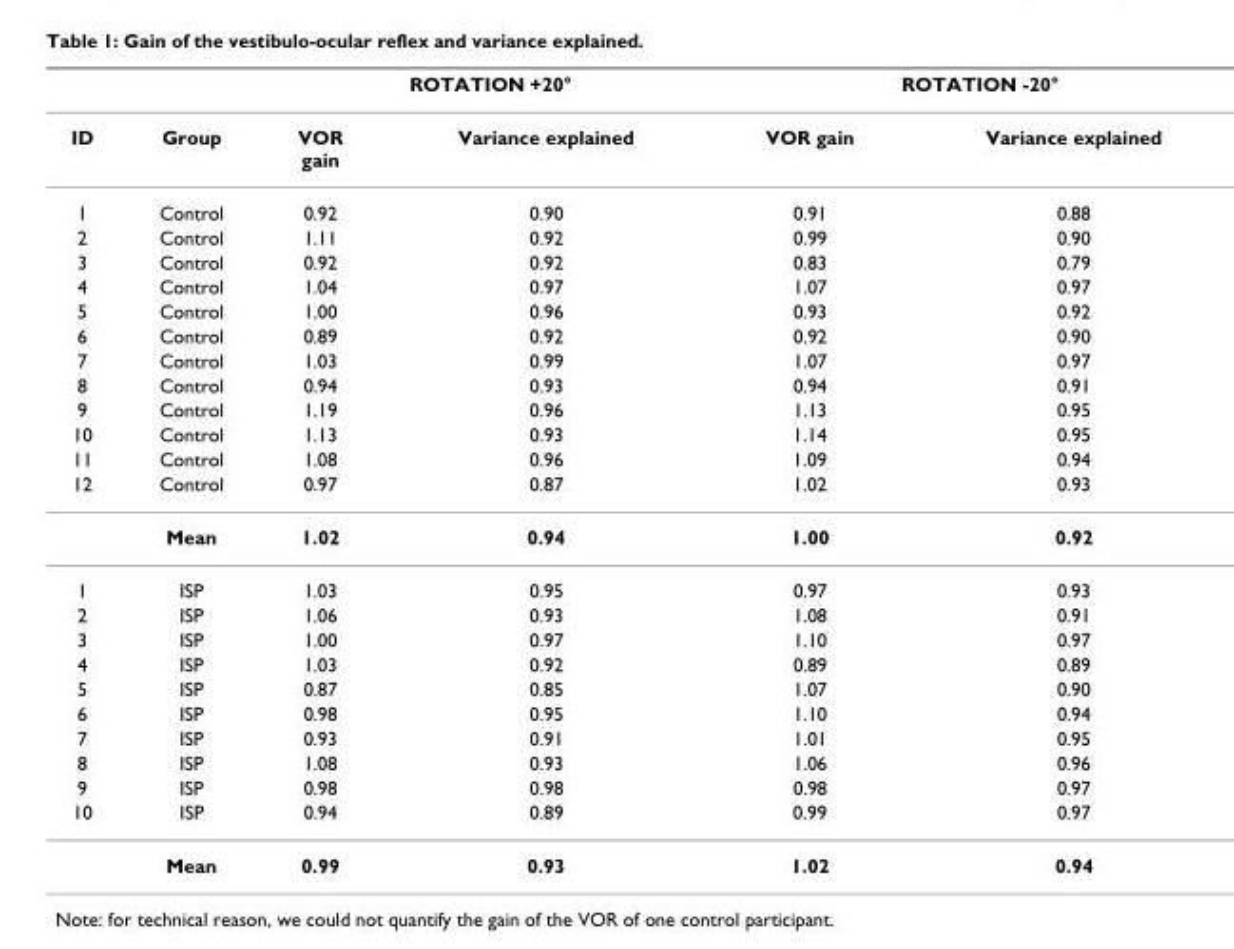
<table><thead><tr><td rowspan="2">ID</td><td rowspan="2">Group</td><td colspan="2">ROTATION +20°</td><td colspan="2">ROTATION -20°</td></tr><tr><td>VOR gain</td><td>Variance explained</td><td>VOR gain</td><td>Variance explained</td></tr></thead><tbody><tr><td>1</td><td>Control</td><td>0.92</td><td>0.90</td><td>0.91</td><td>0.88</td></tr><tr><td>2</td><td>Control</td><td>1.11</td><td>0.92</td><td>0.99</td><td>0.90</td></tr><tr><td>3</td><td>Control</td><td>0.92</td><td>0.92</td><td>0.83</td><td>0.79</td></tr><tr><td>4</td><td>Control</td><td>1.04</td><td>0.97</td><td>1.07</td><td>0.97</td></tr><tr><td>5</td><td>Control</td><td>1.00</td><td>0.96</td><td>0.93</td><td>0.92</td></tr><tr><td>6</td><td>Control</td><td>0.89</td><td>0.92</td><td>0.92</td><td>0.90</td></tr><tr><td>7</td><td>Control</td><td>1.03</td><td>0.99</td><td>1.07</td><td>0.97</td></tr><tr><td>8</td><td>Control</td><td>0.94</td><td>0.93</td><td>0.94</td><td>0.91</td></tr><tr><td>9</td><td>Control</td><td>1.19</td><td>0.96</td><td>1.13</td><td>0.95</td></tr><tr><td>10</td><td>Control</td><td>1.13</td><td>0.93</td><td>1.14</td><td>0.95</td></tr><tr><td>11</td><td>Control</td><td>1.08</td><td>0.96</td><td>1.09</td><td>0.94</td></tr><tr><td rowspan="2">12</td><td>Control</td><td>0.97</td><td>0.87</td><td>1.02</td><td>0.93</td></tr><tr><td>Mean</td><td>1.02</td><td>0.94</td><td>1.00</td><td>0.92</td></tr><tr><td>1</td><td>ISP</td><td>1.03</td><td>0.95</td><td>0.97</td><td>0.93</td></tr><tr><td>2</td><td>ISP</td><td>1.06</td><td>0.93</td><td>1.08</td><td>0.91</td></tr><tr><td>3</td><td>ISP</td><td>1.00</td><td>0.97</td><td>1.10</td><td>0.97</td></tr><tr><td>4</td><td>ISP</td><td>1.03</td><td>0.92</td><td>0.89</td><td>0.89</td></tr><tr><td>5</td><td>ISP</td><td>0.87</td><td>0.85</td><td>1.07</td><td>0.90</td></tr><tr><td>6</td><td>ISP</td><td>0.98</td><td>0.95</td><td>1.10</td><td>0.94</td></tr><tr><td>7</td><td>ISP</td><td>0.93</td><td>0.91</td><td>1.01</td><td>0.95</td></tr><tr><td>8</td><td>ISP</td><td>1.08</td><td>0.93</td><td>1.06</td><td>0.96</td></tr><tr><td>9</td><td>ISP</td><td>0.98</td><td>0.98</td><td>0.98</td><td>0.97</td></tr><tr><td rowspan="2">10</td><td>ISP</td><td>0.94</td><td>0.89</td><td>0.99</td><td>0.97</td></tr><tr><td>Mean</td><td>0.99</td><td>0.93</td><td>1.02</td><td>0.94</td></tr></tbody></table>